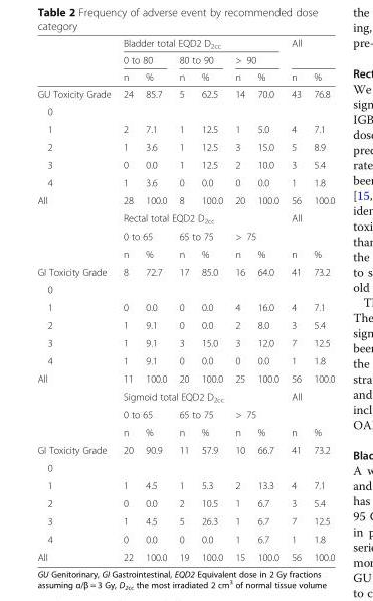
<table><thead><tr><td rowspan="3"></td><td colspan="6">Bladder total EQD2 D<sub>2cc</sub></td><td rowspan="2" colspan="2">All</td></tr><tr><td colspan="2">0 to 80</td><td colspan="2">80 to 90</td><td colspan="2">&gt; 90</td></tr><tr><td>n</td><td>%</td><td>n</td><td>%</td><td>n</td><td>%</td><td>n</td><td>%</td></tr></thead><tbody><tr><td>GU Toxicity Grade</td><td rowspan="2">24</td><td rowspan="2">85.7</td><td rowspan="2">5</td><td rowspan="2">62.5</td><td rowspan="2">14</td><td rowspan="2">70.0</td><td rowspan="2">43</td><td rowspan="2">76.8</td></tr><tr><td>0</td></tr><tr><td>1</td><td>2</td><td>7.1</td><td>1</td><td>12.5</td><td>1</td><td>5.0</td><td>4</td><td>7.1</td></tr><tr><td>2</td><td>1</td><td>3.6</td><td>1</td><td>12.5</td><td>3</td><td>15.0</td><td>5</td><td>8.9</td></tr><tr><td>3</td><td>0</td><td>0.0</td><td>1</td><td>12.5</td><td>2</td><td>10.0</td><td>3</td><td>5.4</td></tr><tr><td>4</td><td>1</td><td>3.6</td><td>0</td><td>0.0</td><td>0</td><td>0.0</td><td>1</td><td>1.8</td></tr><tr><td rowspan="4">All</td><td>28</td><td>100.0</td><td>8</td><td>100.0</td><td>20</td><td>100.0</td><td>56</td><td>100.0</td></tr><tr><td colspan="6">Rectal total EQD2 D<sub>2cc</sub></td><td rowspan="2" colspan="2">All</td></tr><tr><td colspan="2">0 to 65</td><td colspan="2">65 to 75</td><td colspan="2">&gt; 75</td></tr><tr><td>n</td><td>%</td><td>n</td><td>%</td><td>n</td><td>%</td><td>n</td><td>%</td></tr><tr><td>GI Toxicity Grade</td><td rowspan="2">8</td><td rowspan="2">72.7</td><td rowspan="2">17</td><td rowspan="2">85.0</td><td rowspan="2">16</td><td rowspan="2">64.0</td><td rowspan="2">41</td><td rowspan="2">73.2</td></tr><tr><td>0</td></tr><tr><td>1</td><td>0</td><td>0.0</td><td>0</td><td>0.0</td><td>4</td><td>16.0</td><td>4</td><td>7.1</td></tr><tr><td>2</td><td>1</td><td>9.1</td><td>0</td><td>0.0</td><td>2</td><td>8.0</td><td>3</td><td>5.4</td></tr><tr><td>3</td><td>1</td><td>9.1</td><td>3</td><td>15.0</td><td>3</td><td>12.0</td><td>7</td><td>12.5</td></tr><tr><td>4</td><td>1</td><td>9.1</td><td>0</td><td>0.0</td><td>0</td><td>0.0</td><td>1</td><td>1.8</td></tr><tr><td rowspan="4">All</td><td>11</td><td>100.0</td><td>20</td><td>100.0</td><td>25</td><td>100.0</td><td>56</td><td>100.0</td></tr><tr><td colspan="6">Sigmoid total EQD2 D<sub>2cc</sub></td><td rowspan="2" colspan="2">All</td></tr><tr><td colspan="2">0 to 65</td><td colspan="2">65 to 75</td><td colspan="2">&gt; 75</td></tr><tr><td>n</td><td>%</td><td>n</td><td>%</td><td>n</td><td>%</td><td>n</td><td>%</td></tr><tr><td>GI Toxicity Grade</td><td rowspan="2">20</td><td rowspan="2">90.9</td><td rowspan="2">11</td><td rowspan="2">57.9</td><td rowspan="2">10</td><td rowspan="2">66.7</td><td rowspan="2">41</td><td rowspan="2">73.2</td></tr><tr><td>0</td></tr><tr><td>1</td><td>1</td><td>4.5</td><td>1</td><td>5.3</td><td>2</td><td>13.3</td><td>4</td><td>7.1</td></tr><tr><td>2</td><td>0</td><td>0.0</td><td>2</td><td>10.5</td><td>1</td><td>6.7</td><td>3</td><td>5.4</td></tr><tr><td>3</td><td>1</td><td>4.5</td><td>5</td><td>26.3</td><td>1</td><td>6.7</td><td>7</td><td>12.5</td></tr><tr><td>4</td><td>0</td><td>0.0</td><td>0</td><td>0.0</td><td>1</td><td>6.7</td><td>1</td><td>1.8</td></tr><tr><td>All</td><td>22</td><td>100.0</td><td>19</td><td>100.0</td><td>15</td><td>100.0</td><td>56</td><td>100.0</td></tr></tbody></table>